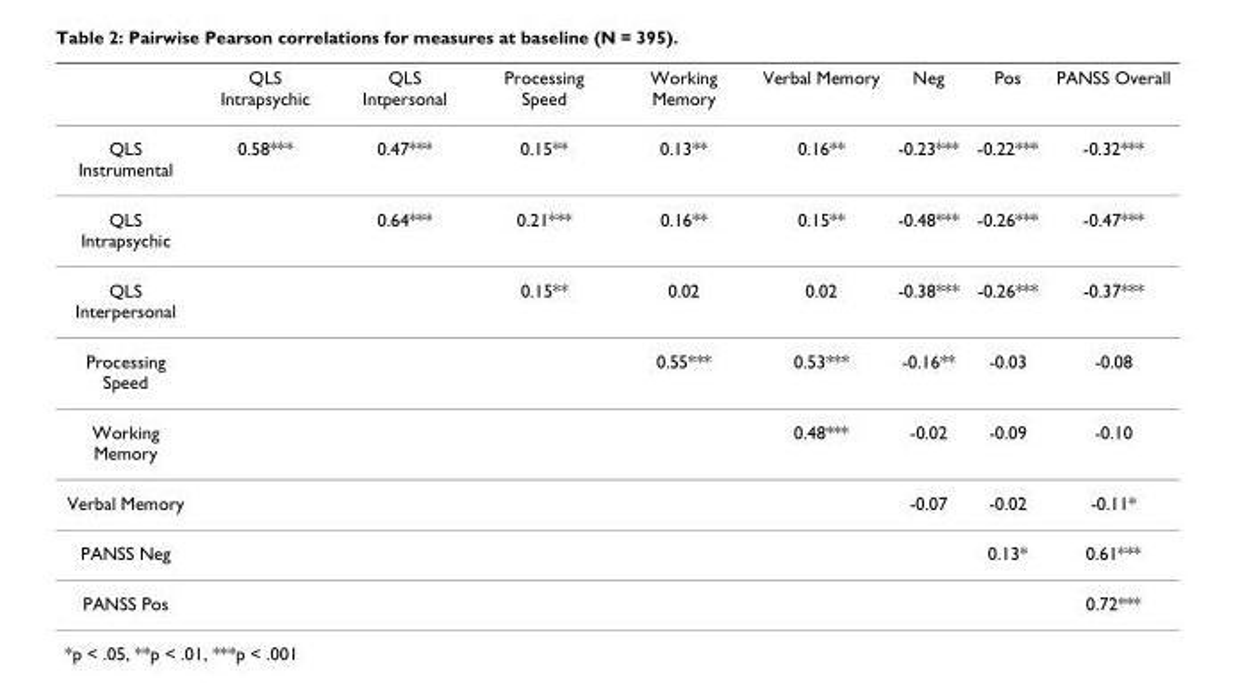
<table><thead><tr><td></td><td>QLS Intrapsychic</td><td>QLS Intpersonal</td><td>Processing Speed</td><td>Working Memory</td><td>Verbal Memory</td><td>Neg</td><td>Pos</td><td>PANSS Overall</td></tr></thead><tbody><tr><td>QLS Instrumental</td><td>0.58***</td><td>0.47***</td><td>0.15**</td><td>0.13**</td><td>0.16**</td><td>-0.23***</td><td>-0.22***</td><td>-0.32***</td></tr><tr><td>QLS Intrapsychic</td><td></td><td>0.64***</td><td>0.21***</td><td>0.16**</td><td>0.15**</td><td>-0.48***</td><td>-0.26***</td><td>-0.47***</td></tr><tr><td>QLS Interpersonal</td><td></td><td></td><td>0.15**</td><td>0.02</td><td>0.02</td><td>-0.38***</td><td>-0.26***</td><td>-0.37***</td></tr><tr><td>Processing Speed</td><td></td><td></td><td></td><td>0.55***</td><td>0.53***</td><td>-0.16**</td><td>-0.03</td><td>-0.08</td></tr><tr><td>Working Memory</td><td></td><td></td><td></td><td></td><td>0.48***</td><td>-0.02</td><td>-0.09</td><td>-0.10</td></tr><tr><td>Verbal Memory</td><td></td><td></td><td></td><td></td><td></td><td>-0.07</td><td>-0.02</td><td>-0.11*</td></tr><tr><td>PANSS Neg</td><td></td><td></td><td></td><td></td><td></td><td></td><td>0.13*</td><td>0.61***</td></tr><tr><td>PANSS Pos</td><td></td><td></td><td></td><td></td><td></td><td></td><td></td><td>0.72***</td></tr></tbody></table>